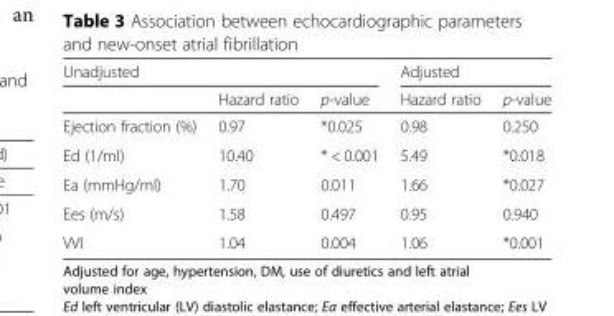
<table><thead><tr><td colspan="3">Unadjusted</td><td colspan="2">Adjusted</td></tr><tr><td></td><td>Hazard ratio</td><td>p-value</td><td>Hazard ratio</td><td>p-value</td></tr></thead><tbody><tr><td>Ejection fraction (%)</td><td>0.97</td><td>*0.025</td><td>0.98</td><td>0.250</td></tr><tr><td>Ed (1/ml)</td><td>10.40</td><td>* &lt; 0.001</td><td>5.49</td><td>*0.018</td></tr><tr><td>Ea (mmHg/ml)</td><td>1.70</td><td>0.011</td><td>1.66</td><td>*0.027</td></tr><tr><td>Ees (m/s)</td><td>1.58</td><td>0.497</td><td>0.95</td><td>0.940</td></tr><tr><td>VVI</td><td>1.04</td><td>0.004</td><td>1.06</td><td>*0.001</td></tr></tbody></table>